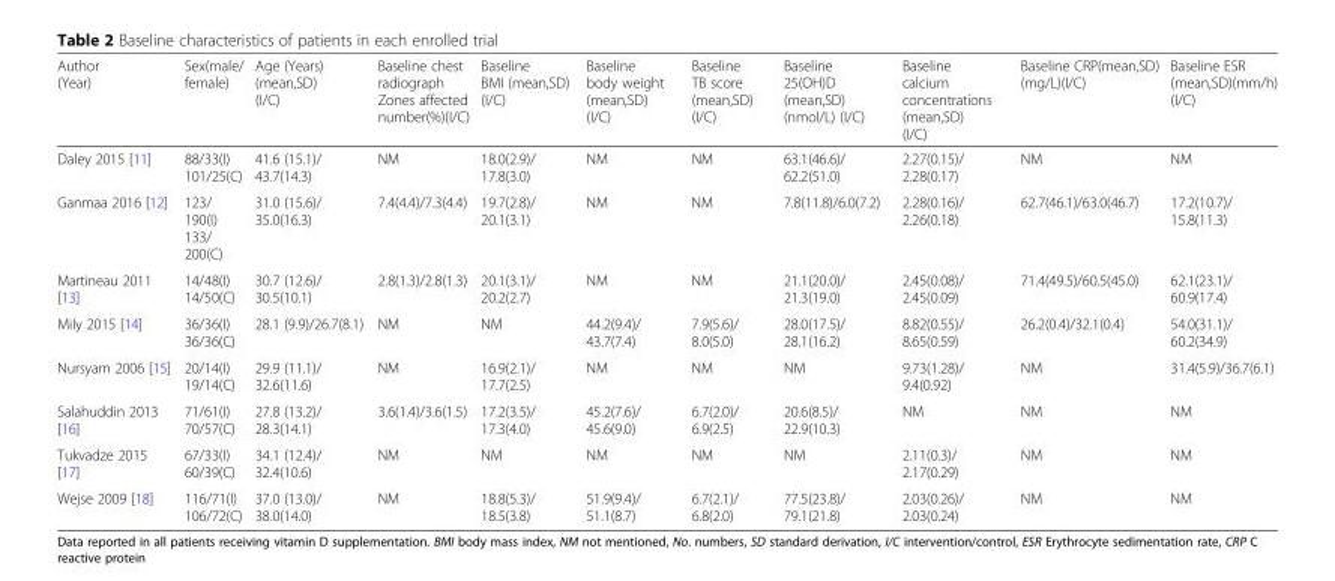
<table><thead><tr><td>Author (Year)</td><td>Sex(male/ female)</td><td>Age (Years) (mean,SD) (I/C)</td><td>Baseline chest radiograph Zones affected number(%)(I/C)</td><td>Baseline BMI (mean,SD) (I/C)</td><td>Baseline body weight (mean,SD) (I/C)</td><td>Baseline TB score (mean,SD) (I/C)</td><td>Baseline 25(OH)D (mean,SD) (nmol/L) (I/C)</td><td>Baseline calcium concentrations (mean,SD) (I/C)</td><td>Baseline CRP(mean,SD) (mg/L)(I/C)</td><td>Baseline ESR (mean,SD)(mm/h) (I/C)</td></tr></thead><tbody><tr><td>Daley 2015 [11]</td><td>88/33(I) 101/25(C)</td><td>41.6 (15.1)/ 43.7(14.3)</td><td>NM</td><td>18.0(2.9)/ 17.8(3.0)</td><td>NM</td><td>NM</td><td>63.1(46.6)/ 62.2(51.0)</td><td>2.27(0.15)/ 2.28(0.17)</td><td>NM</td><td>NM</td></tr><tr><td>Ganmaa 2016 [12]</td><td>123/ 190(I) 133/ 200(C)</td><td>31.0 (15.6)/ 35.0(16.3)</td><td>7.4(4.4)/7.3(4.4)</td><td>19.7(2.8)/ 20.1(3.1)</td><td>NM</td><td>NM</td><td>7.8(11.8)/6.0(7.2)</td><td>2.28(0.16)/ 2.26(0.18)</td><td>62.7(46.1)/63.0(46.7)</td><td>17.2(10.7)/ 15.8(11.3)</td></tr><tr><td>Martineau 2011 [13]</td><td>14/48(I) 14/50(C)</td><td>30.7 (12.6)/ 30.5(10.1)</td><td>2.8(1.3)/2.8(1.3)</td><td>20.1(3.1)/ 20.2(2.7)</td><td>NM</td><td>NM</td><td>21.1(20.0)/ 21.3(19.0)</td><td>2.45(0.08)/ 2.45(0.09)</td><td>71.4(49.5)/60.5(45.0)</td><td>62.1(23.1)/ 60.9(17.4)</td></tr><tr><td>Mily 2015 [14]</td><td>36/36(I) 36/36(C)</td><td>28.1 (9.9)/26.7(8.1)</td><td>NM</td><td>NM</td><td>44.2(9.4)/ 43.7(7.4)</td><td>7.9(5.6)/ 8.0(5.0)</td><td>28.0(17.5)/ 28.1(16.2)</td><td>8.82(0.55)/ 8.65(0.59)</td><td>26.2(0.4)/32.1(0.4)</td><td>54.0(31.1)/ 60.2(34.9)</td></tr><tr><td>Nursyam 2006 [15]</td><td>20/14(I) 19/14(C)</td><td>29.9 (11.1)/ 32.6(11.6)</td><td>NM</td><td>16.9(2.1)/ 17.7(2.5)</td><td>NM</td><td>NM</td><td>NM</td><td>9.73(1.28)/ 9.4(0.92)</td><td>NM</td><td>31.4(5.9)/36.7(6.1)</td></tr><tr><td>Salahuddin 2013 [16]</td><td>71/61(I) 70/57(C)</td><td>27.8 (13.2)/ 28.3(14.1)</td><td>3.6(1.4)/3.6(1.5)</td><td>17.2(3.5)/ 17.3(4.0)</td><td>45.2(7.6)/ 45.6(9.0)</td><td>6.7(2.0)/ 6.9(2.5)</td><td>20.6(8.5)/ 22.9(10.3)</td><td>NM</td><td>NM</td><td>NM</td></tr><tr><td>Tukvadze 2015 [17]</td><td>67/33(I) 60/39(C)</td><td>34.1 (12.4)/ 32.4(10.6)</td><td>NM</td><td>NM</td><td>NM</td><td>NM</td><td>NM</td><td>2.11(0.3)/ 2.17(0.29)</td><td>NM</td><td>NM</td></tr><tr><td>Wejse 2009 [18]</td><td>116/71(I) 106/72(C)</td><td>37.0 (13.0)/ 38.0(14.0)</td><td>NM</td><td>18.8(5.3)/ 18.5(3.8)</td><td>51.9(9.4)/ 51.1(8.7)</td><td>6.7(2.1)/ 6.8(2.0)</td><td>77.5(23.8)/ 79.1(21.8)</td><td>2.03(0.26)/ 2.03(0.24)</td><td>NM</td><td>NM</td></tr></tbody></table>